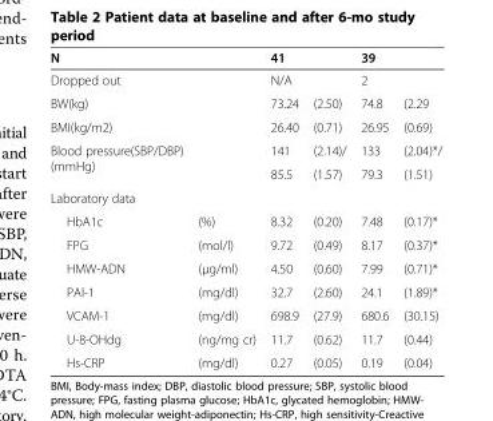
<table><thead><tr><td rowspan="3">N Dropped out BW(kg)</td><td rowspan="3"></td><td rowspan="2" colspan="2">41 N/A</td><td rowspan="2" colspan="2">39 2</td></tr><tr></tr><tr><td>73.24</td><td>(2.50)</td><td>74.8</td><td>(2.29</td></tr></thead><tbody><tr><td>BMI(kg/m2)</td><td></td><td>26.40</td><td>(0.71)</td><td>26.95</td><td>(0.69)</td></tr><tr><td rowspan="2">Blood pressure(SBP/DBP) (mmHg)</td><td rowspan="2"></td><td>141</td><td>(2.14)/</td><td>133</td><td>(2.04)*/</td></tr><tr><td>85.5</td><td>(1.57)</td><td>79.3</td><td>(1.51)</td></tr><tr><td colspan="6">Laboratory data</td></tr><tr><td>HbA1c</td><td>(%)</td><td>8.32</td><td>(0.20)</td><td>7.48</td><td>(0.17)*</td></tr><tr><td>FPG</td><td>(mol/l)</td><td>9.72</td><td>(0.49)</td><td>8.17</td><td>(0.37)*</td></tr><tr><td>HMW-ADN</td><td>(μg/ml)</td><td>4.50</td><td>(0.60)</td><td>7.99</td><td>(0.71)*</td></tr><tr><td>PAl-1</td><td>(mg/dl)</td><td>32.7</td><td>(2.60)</td><td>24.1</td><td>(1.89)*</td></tr><tr><td>VCAM-1</td><td>(mg/dl)</td><td>698.9</td><td>(27.9)</td><td>680.6</td><td>(30.15)</td></tr><tr><td>U-8-OHdg</td><td>(ng/mg cr)</td><td>11.7</td><td>(0.62)</td><td>11.7</td><td>(0.44)</td></tr><tr><td>Hs-CRP</td><td>(mg/dl)</td><td>0.27</td><td>(0.05)</td><td>0.19</td><td>(0.04)</td></tr></tbody></table>